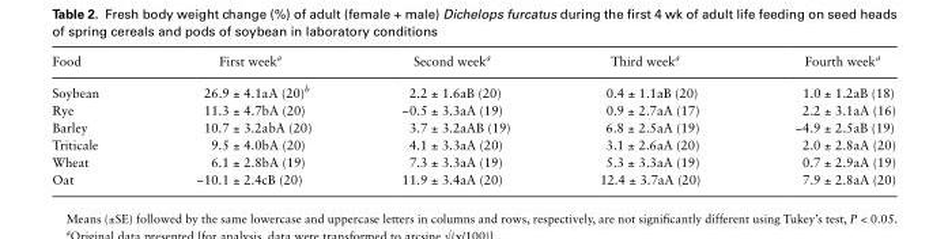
<table><thead><tr><td>Food</td><td>First week<sup>a</sup></td><td>Second week<sup>a</sup></td><td>Third week<sup>a</sup></td><td>Fourth week<sup>a</sup></td></tr></thead><tbody><tr><td>Soybean</td><td>26.9 ± 4.1aA (20)<sup>b</sup></td><td>2.2 ± 1.6aB (20)</td><td>0.4 ± 1.1aB (20)</td><td>1.0 ± 1.2aB (18)</td></tr><tr><td>Rye</td><td>11.3 ± 4.7bA (20)</td><td>−0.5 ± 3.3aA (19)</td><td>0.9 ± 2.7aA (17)</td><td>2.2 ± 3.1aA (16)</td></tr><tr><td>Barley</td><td>10.7 ± 3.2abA (20)</td><td>3.7 ± 3.2aAB (19)</td><td>6.8 ± 2.5aA (19)</td><td>−4.9 ± 2.5aB (19)</td></tr><tr><td>Triticale</td><td>9.5 ± 4.0bA (20)</td><td>4.1 ± 3.3aA (20)</td><td>3.1 ± 2.6aA (20)</td><td>2.0 ± 2.8aA (20)</td></tr><tr><td>Wheat</td><td>6.1 ± 2.8bA (19)</td><td>7.3 ± 3.3aA (19)</td><td>5.3 ± 3.3aA (19)</td><td>0.7 ± 2.9aA (19)</td></tr><tr><td>Oat</td><td>−10.1 ± 2.4cB (20)</td><td>11.9 ± 3.4aA (20)</td><td>12.4 ± 3.7aA (20)</td><td>7.9 ± 2.8aA (20)</td></tr></tbody></table>